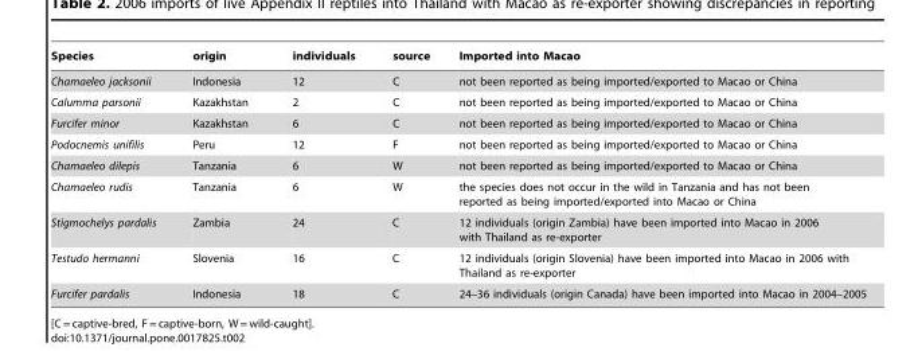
<table><thead><tr><td>Species</td><td>origin</td><td>individuals</td><td>source</td><td>Imported into Macao</td></tr></thead><tbody><tr><td>Chamaeleo jacksonii</td><td>Indonesia</td><td>12</td><td>C</td><td>not been reported as being imported/exported to Macao or China</td></tr><tr><td>Calumma parsonii</td><td>Kazakhstan</td><td>2</td><td>C</td><td>not been reported as being imported/exported to Macao or China</td></tr><tr><td>Furcifer minor</td><td>Kazakhstan</td><td>6</td><td>C</td><td>not been reported as being imported/exported to Macao or China</td></tr><tr><td>Podocnemis unifilis</td><td>Peru</td><td>12</td><td>F</td><td>not been reported as being imported/exported to Macao or China</td></tr><tr><td>Chamaeleo dilepis</td><td>Tanzania</td><td>6</td><td>W</td><td>not been reported as being imported/exported to Macao or China</td></tr><tr><td>Chamaeleo rudis</td><td>Tanzania</td><td>6</td><td>W</td><td>the species does not occur in the wild in Tanzania and has not been reported as being imported/exported into Macao or China</td></tr><tr><td>Stigmochelys pardalis</td><td>Zambia</td><td>24</td><td>C</td><td>12 individuals (origin Zambia) have been imported into Macao in 2006 with Thailand as re-exporter</td></tr><tr><td>Testudo hermanni</td><td>Slovenia</td><td>16</td><td>C</td><td>12 individuals (origin Slovenia) have been imported into Macao in 2006 with Thailand as re-exporter</td></tr><tr><td>Furcifer pardalis</td><td>Indonesia</td><td>18</td><td>C</td><td>24–36 individuals (origin Canada) have been imported into Macao in 2004–2005</td></tr></tbody></table>